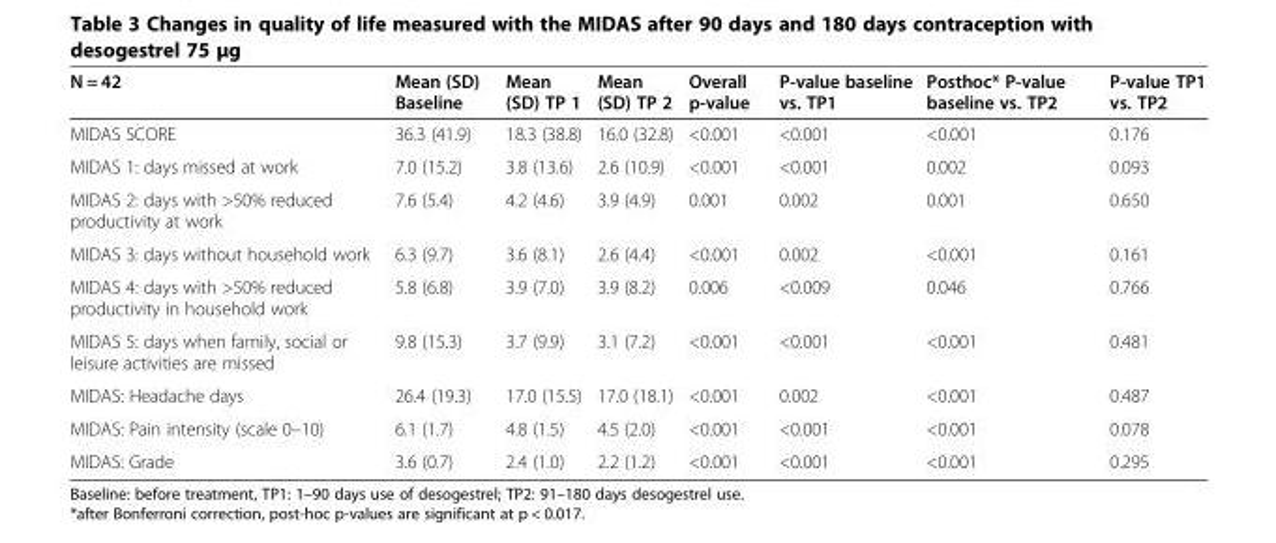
<table><thead><tr><td>N = 42</td><td>Mean (SD) Baseline</td><td>Mean (SD) TP 1</td><td>Mean (SD) TP 2</td><td>Overall p-value</td><td>P-value baseline vs. TP1</td><td>Posthoc* P-value baseline vs. TP2</td><td>P-value TP1 vs. TP2</td></tr></thead><tbody><tr><td>MIDAS SCORE</td><td>36.3 (41.9)</td><td>18.3 (38.8)</td><td>16.0 (32.8)</td><td>&lt;0.001</td><td>&lt;0.001</td><td>&lt;0.001</td><td>0.176</td></tr><tr><td>MIDAS 1: days missed at work</td><td>7.0 (15.2)</td><td>3.8 (13.6)</td><td>2.6 (10.9)</td><td>&lt;0.001</td><td>&lt;0.001</td><td>0.002</td><td>0.093</td></tr><tr><td>MIDAS 2: days with &gt;50% reduced productivity at work</td><td>7.6 (5.4)</td><td>4.2 (4.6)</td><td>3.9 (4.9)</td><td>0.001</td><td>0.002</td><td>0.001</td><td>0.650</td></tr><tr><td>MIDAS 3: days without household work</td><td>6.3 (9.7)</td><td>3.6 (8.1)</td><td>2.6 (4.4)</td><td>&lt;0.001</td><td>0.002</td><td>&lt;0.001</td><td>0.161</td></tr><tr><td>MIDAS 4: days with &gt;50% reduced productivity in household work</td><td>5.8 (6.8)</td><td>3.9 (7.0)</td><td>3.9 (8.2)</td><td>0.006</td><td>&lt;0.009</td><td>0.046</td><td>0.766</td></tr><tr><td>MIDAS 5: days when family, social or leisure activities are missed</td><td>9.8 (15.3)</td><td>3.7 (9.9)</td><td>3.1 (7.2)</td><td>&lt;0.001</td><td>&lt;0.001</td><td>&lt;0.001</td><td>0.481</td></tr><tr><td>MIDAS: Headache days</td><td>26.4 (19.3)</td><td>17.0 (15.5)</td><td>17.0 (18.1)</td><td>&lt;0.001</td><td>0.002</td><td>&lt;0.001</td><td>0.487</td></tr><tr><td>MIDAS: Pain intensity (scale 0–10)</td><td>6.1 (1.7)</td><td>4.8 (1.5)</td><td>4.5 (2.0)</td><td>&lt;0.001</td><td>&lt;0.001</td><td>&lt;0.001</td><td>0.078</td></tr><tr><td>MIDAS: Grade</td><td>3.6 (0.7)</td><td>2.4 (1.0)</td><td>2.2 (1.2)</td><td>&lt;0.001</td><td>&lt;0.001</td><td>&lt;0.001</td><td>0.295</td></tr></tbody></table>